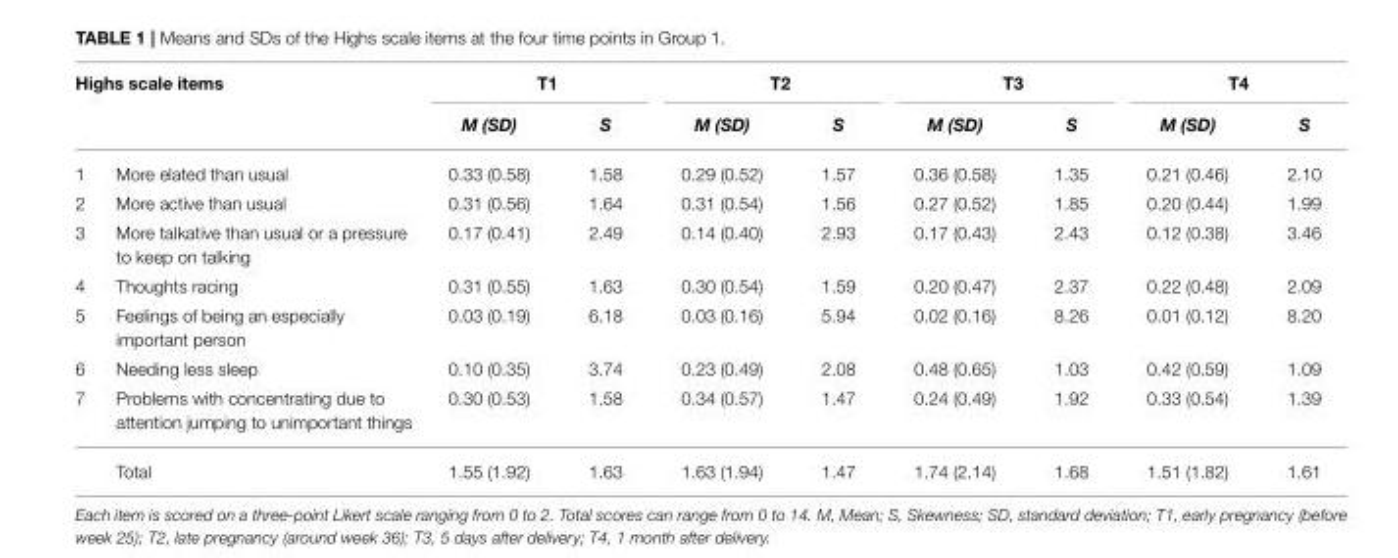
<table><thead><tr><td colspan="2">Highs scale items</td><td colspan="2">T1</td><td colspan="2">T2</td><td colspan="2">T3</td><td colspan="2">T4</td></tr><tr><td></td><td></td><td>M (SD)</td><td>S</td><td>M (SD)</td><td>S</td><td>M (SD)</td><td>S</td><td>M (SD)</td><td>S</td></tr></thead><tbody><tr><td>1</td><td>More elated than usual</td><td>0.33 (0.58)</td><td>1.58</td><td>0.29 (0.52)</td><td>1.57</td><td>0.36 (0.58)</td><td>1.35</td><td>0.21 (0.46)</td><td>2.10</td></tr><tr><td>2</td><td>More active than usual</td><td>0.31 (0.56)</td><td>1.64</td><td>0.31 (0.54)</td><td>1.56</td><td>0.27 (0.52)</td><td>1.85</td><td>0.20 (0.44)</td><td>1.99</td></tr><tr><td>3</td><td>More talkative than usual or a pressure to keep on talking</td><td>0.17 (0.41)</td><td>2.49</td><td>0.14 (0.40)</td><td>2.93</td><td>0.17 (0.43)</td><td>2.43</td><td>0.12 (0.38)</td><td>3.46</td></tr><tr><td>4</td><td>Thoughts racing</td><td>0.31 (0.55)</td><td>1.63</td><td>0.30 (0.54)</td><td>1.59</td><td>0.20 (0.47)</td><td>2.37</td><td>0.22 (0.48)</td><td>2.09</td></tr><tr><td>5</td><td>Feelings of being an especially important person</td><td>0.03 (0.19)</td><td>6.18</td><td>0.03 (0.16)</td><td>5.94</td><td>0.02 (0.16)</td><td>8.26</td><td>0.01 (0.12)</td><td>8.20</td></tr><tr><td>6</td><td>Needing less sleep</td><td>0.10 (0.35)</td><td>3.74</td><td>0.23 (0.49)</td><td>2.08</td><td>0.48 (0.65)</td><td>1.03</td><td>0.42 (0.59)</td><td>1.09</td></tr><tr><td rowspan="2">7</td><td>Problems with concentrating due to attention jumping to unimportant things</td><td>0.30 (0.53)</td><td>1.58</td><td>0.34 (0.57)</td><td>1.47</td><td>0.24 (0.49)</td><td>1.92</td><td>0.33 (0.54)</td><td>1.39</td></tr><tr><td>Total</td><td>1.55 (1.92)</td><td>1.63</td><td>1.63 (1.94)</td><td>1.47</td><td>1.74 (2.14)</td><td>1.68</td><td>1.51 (1.82)</td><td>1.61</td></tr></tbody></table>